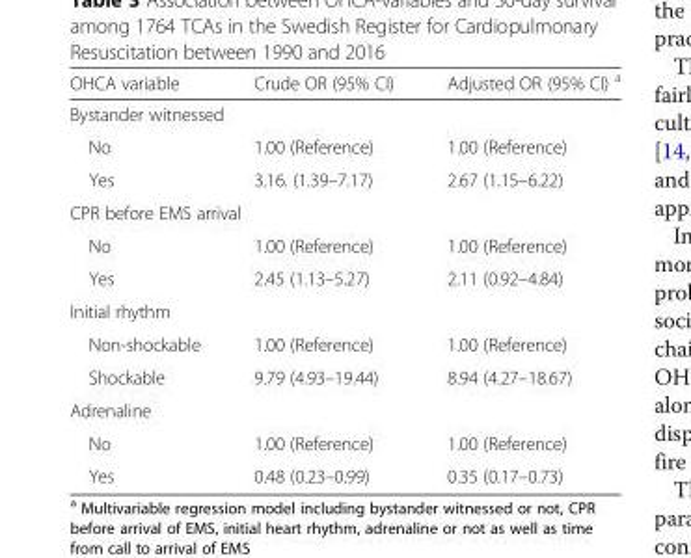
<table><thead><tr><td>OHCA variable</td><td>Crude OR (95% CI)</td><td>Adjusted OR (95% CI) <sup>a</sup></td></tr></thead><tbody><tr><td colspan="3">Bystander witnessed</td></tr><tr><td>No</td><td>1.00 (Reference)</td><td>1.00 (Reference)</td></tr><tr><td>Yes</td><td>3.16. (1.39–7.17)</td><td>2.67 (1.15–6.22)</td></tr><tr><td colspan="3">CPR before EMS arrival</td></tr><tr><td>No</td><td>1.00 (Reference)</td><td>1.00 (Reference)</td></tr><tr><td>Yes</td><td>2.45 (1.13–5.27)</td><td>2.11 (0.92–4.84)</td></tr><tr><td colspan="3">Initial rhythm</td></tr><tr><td>Non-shockable</td><td>1.00 (Reference)</td><td>1.00 (Reference)</td></tr><tr><td>Shockable</td><td>9.79 (4.93–19.44)</td><td>8.94 (4.27–18.67)</td></tr><tr><td colspan="3">Adrenaline</td></tr><tr><td>No</td><td>1.00 (Reference)</td><td>1.00 (Reference)</td></tr><tr><td>Yes</td><td>0.48 (0.23–0.99)</td><td>0.35 (0.17–0.73)</td></tr></tbody></table>